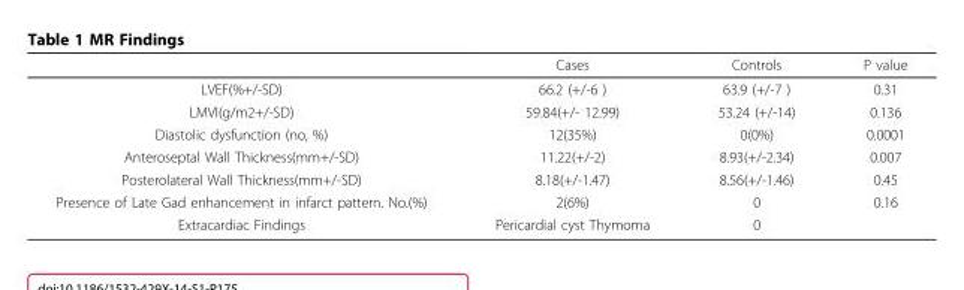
<table><thead><tr><td></td><td>Cases</td><td>Controls</td><td>P value</td></tr></thead><tbody><tr><td>LVEF(%+/-SD)</td><td>66.2 (+/-6 )</td><td>63.9 (+/-7 )</td><td>0.31</td></tr><tr><td>LMVI(g/m2+/-SD)</td><td>59.84(+/- 12.99)</td><td>53.24 (+/-14)</td><td>0.136</td></tr><tr><td>Diastolic dysfunction (no, %)</td><td>12(35%)</td><td>0(0%)</td><td>0.0001</td></tr><tr><td>Anteroseptal Wall Thickness(mm+/-SD)</td><td>11.22(+/-2)</td><td>8.93(+/-2.34)</td><td>0.007</td></tr><tr><td>Posterolateral Wall Thickness(mm+/-SD)</td><td>8.18(+/-1.47)</td><td>8.56(+/-1.46)</td><td>0.45</td></tr><tr><td>Presence of Late Gad enhancement in infarct pattern. No.(%)</td><td>2(6%)</td><td>0</td><td>0.16</td></tr><tr><td>Extracardiac Findings</td><td>Pericardial cyst Thymoma</td><td>0</td><td></td></tr></tbody></table>